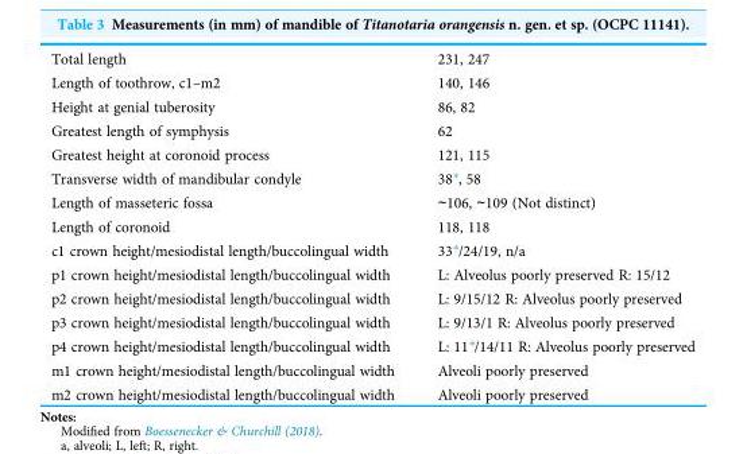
<table><tbody><tr><td>Total length</td><td>231, 247</td></tr><tr><td>Length of toothrow, c1–m2</td><td>140, 146</td></tr><tr><td>Height at genial tuberosity</td><td>86, 82</td></tr><tr><td>Greatest length of symphysis</td><td>62</td></tr><tr><td>Greatest height at coronoid process</td><td>121, 115</td></tr><tr><td>Transverse width of mandibular condyle</td><td>38*, 58</td></tr><tr><td>Length of masseteric fossa</td><td>∼106, ∼109 (Not distinct)</td></tr><tr><td>Length of coronoid</td><td>118, 118</td></tr><tr><td>c1 crown height/mesiodistal length/buccolingual width</td><td>33*/24/19, n/a</td></tr><tr><td>p1 crown height/mesiodistal length/buccolingual width</td><td>L: Alveolus poorly preserved R: 15/12</td></tr><tr><td>p2 crown height/mesiodistal length/buccolingual width</td><td>L: 9/15/12 R: Alveolus poorly preserved</td></tr><tr><td>p3 crown height/mesiodistal length/buccolingual width</td><td>L: 9/13/1 R: Alveolus poorly preserved</td></tr><tr><td>p4 crown height/mesiodistal length/buccolingual width</td><td>L: 11*/14/11 R: Alveolus poorly preserved</td></tr><tr><td>m1 crown height/mesiodistal length/buccolingual width</td><td>Alveoli poorly preserved</td></tr><tr><td>m2 crown height/mesiodistal length/buccolingual width</td><td>Alveoli poorly preserved</td></tr></tbody></table>